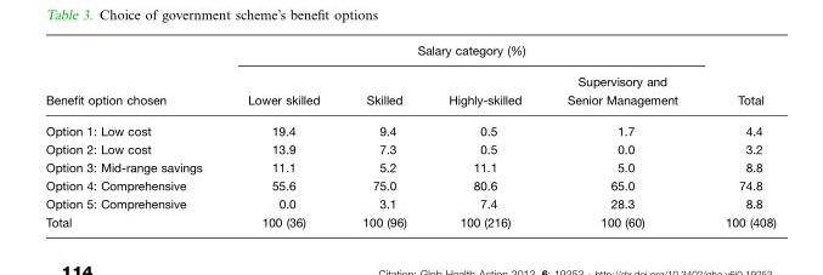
<table><thead><tr><td rowspan="2">Benefit option chosen</td><td colspan="4">Salary category (%)</td><td rowspan="2">Total</td></tr><tr><td>Lower skilled</td><td>Skilled</td><td>Highly-skilled</td><td>Supervisory and Senior Management</td></tr></thead><tbody><tr><td>Option 1: Low cost</td><td>19.4</td><td>9.4</td><td>0.5</td><td>1.7</td><td>4.4</td></tr><tr><td>Option 2: Low cost</td><td>13.9</td><td>7.3</td><td>0.5</td><td>0.0</td><td>3.2</td></tr><tr><td>Option 3: Mid-range savings</td><td>11.1</td><td>5.2</td><td>11.1</td><td>5.0</td><td>8.8</td></tr><tr><td>Option 4: Comprehensive</td><td>55.6</td><td>75.0</td><td>80.6</td><td>65.0</td><td>74.8</td></tr><tr><td>Option 5: Comprehensive</td><td>0.0</td><td>3.1</td><td>7.4</td><td>28.3</td><td>8.8</td></tr><tr><td>Total</td><td>100 (36)</td><td>100 (96)</td><td>100 (216)</td><td>100 (60)</td><td>100 (408)</td></tr></tbody></table>